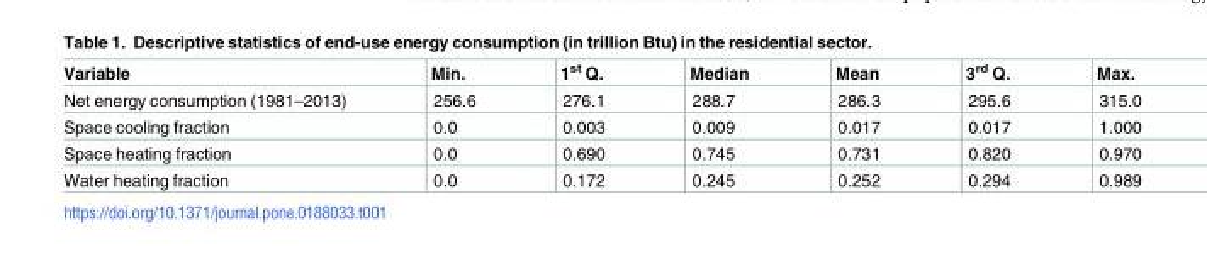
<table><thead><tr><td>Variable</td><td>Min.</td><td>1<sup>st</sup> Q.</td><td>Median</td><td>Mean</td><td>3<sup>rd</sup> Q.</td><td>Max.</td></tr></thead><tbody><tr><td>Net energy consumption (1981–2013)</td><td>256.6</td><td>276.1</td><td>288.7</td><td>286.3</td><td>295.6</td><td>315.0</td></tr><tr><td>Space cooling fraction</td><td>0.0</td><td>0.003</td><td>0.009</td><td>0.017</td><td>0.017</td><td>1.000</td></tr><tr><td>Space heating fraction</td><td>0.0</td><td>0.690</td><td>0.745</td><td>0.731</td><td>0.820</td><td>0.970</td></tr><tr><td>Water heating fraction</td><td>0.0</td><td>0.172</td><td>0.245</td><td>0.252</td><td>0.294</td><td>0.989</td></tr></tbody></table>